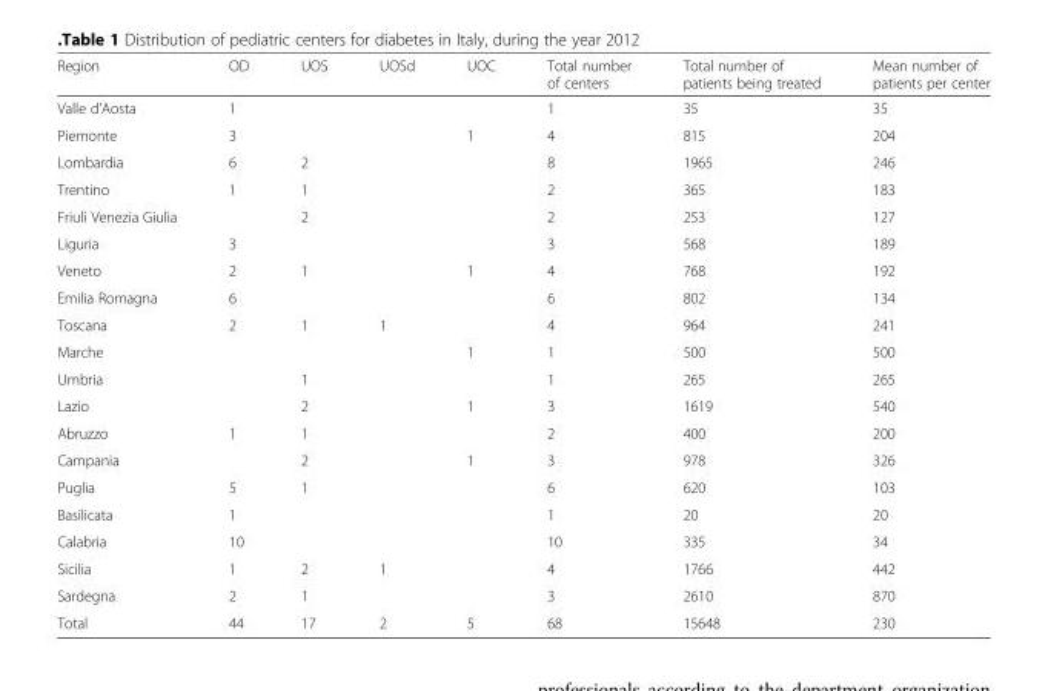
<table><thead><tr><td>Region</td><td>OD</td><td>UOS</td><td>UOSd</td><td>UOC</td><td>Total number of centers</td><td>Total number of patients being treated</td><td>Mean number of patients per center</td></tr></thead><tbody><tr><td>Valle d’Aosta</td><td>1</td><td></td><td></td><td></td><td>1</td><td>35</td><td>35</td></tr><tr><td>Piemonte</td><td>3</td><td></td><td></td><td>1</td><td>4</td><td>815</td><td>204</td></tr><tr><td>Lombardia</td><td>6</td><td>2</td><td></td><td></td><td>8</td><td>1965</td><td>246</td></tr><tr><td>Trentino</td><td>1</td><td>1</td><td></td><td></td><td>2</td><td>365</td><td>183</td></tr><tr><td>Friuli Venezia Giulia</td><td></td><td>2</td><td></td><td></td><td>2</td><td>253</td><td>127</td></tr><tr><td>Liguria</td><td>3</td><td></td><td></td><td></td><td>3</td><td>568</td><td>189</td></tr><tr><td>Veneto</td><td>2</td><td>1</td><td></td><td>1</td><td>4</td><td>768</td><td>192</td></tr><tr><td>Emilia Romagna</td><td>6</td><td></td><td></td><td></td><td>6</td><td>802</td><td>134</td></tr><tr><td>Toscana</td><td>2</td><td>1</td><td>1</td><td></td><td>4</td><td>964</td><td>241</td></tr><tr><td>Marche</td><td></td><td></td><td></td><td>1</td><td>1</td><td>500</td><td>500</td></tr><tr><td>Umbria</td><td></td><td>1</td><td></td><td></td><td>1</td><td>265</td><td>265</td></tr><tr><td>Lazio</td><td></td><td>2</td><td></td><td>1</td><td>3</td><td>1619</td><td>540</td></tr><tr><td>Abruzzo</td><td>1</td><td>1</td><td></td><td></td><td>2</td><td>400</td><td>200</td></tr><tr><td>Campania</td><td></td><td>2</td><td></td><td>1</td><td>3</td><td>978</td><td>326</td></tr><tr><td>Puglia</td><td>5</td><td>1</td><td></td><td></td><td>6</td><td>620</td><td>103</td></tr><tr><td>Basilicata</td><td>1</td><td></td><td></td><td></td><td>1</td><td>20</td><td>20</td></tr><tr><td>Calabria</td><td>10</td><td></td><td></td><td></td><td>10</td><td>335</td><td>34</td></tr><tr><td>Sicilia</td><td>1</td><td>2</td><td>1</td><td></td><td>4</td><td>1766</td><td>442</td></tr><tr><td>Sardegna</td><td>2</td><td>1</td><td></td><td></td><td>3</td><td>2610</td><td>870</td></tr><tr><td>Total</td><td>44</td><td>17</td><td>2</td><td>5</td><td>68</td><td>15648</td><td>230</td></tr></tbody></table>